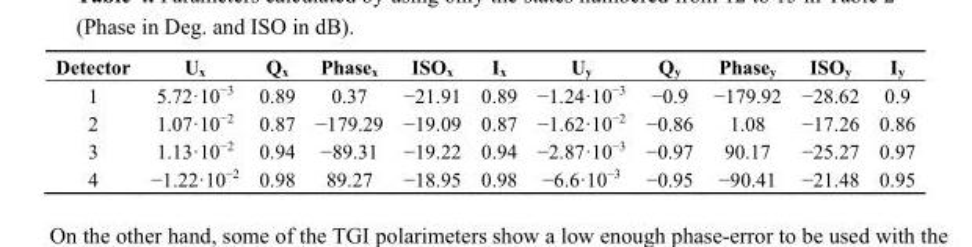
<table><thead><tr><td>Detector</td><td>U<sub>x</sub></td><td>Q<sub>x</sub></td><td>Phase<sub>x</sub></td><td>ISO<sub>x</sub></td><td>I<sub>x</sub></td><td>U<sub>y</sub></td><td>Q<sub>y</sub></td><td>Phase<sub>y</sub></td><td>ISO<sub>y</sub></td><td>I<sub>y</sub></td></tr></thead><tbody><tr><td>1</td><td>5.72·10<sup>−3</sup></td><td>0.89</td><td>0.37</td><td>−21.91</td><td>0.89</td><td>−1.24·10<sup>−3</sup></td><td>−0.9</td><td>−179.92</td><td>−28.62</td><td>0.9</td></tr><tr><td>2</td><td>1.07·10<sup>−2</sup></td><td>0.87</td><td>−179.29</td><td>−19.09</td><td>0.87</td><td>−1.62·10<sup>−2</sup></td><td>−0.86</td><td>1.08</td><td>−17.26</td><td>0.86</td></tr><tr><td>3</td><td>1.13·10<sup>−2</sup></td><td>0.94</td><td>−89.31</td><td>−19.22</td><td>0.94</td><td>−2.87·10<sup>−3</sup></td><td>−0.97</td><td>90.17</td><td>−25.27</td><td>0.97</td></tr><tr><td>4</td><td>−1.22·10<sup>−2</sup></td><td>0.98</td><td>89.27</td><td>−18.95</td><td>0.98</td><td>−6.6·10<sup>−3</sup></td><td>−0.95</td><td>−90.41</td><td>−21.48</td><td>0.95</td></tr></tbody></table>